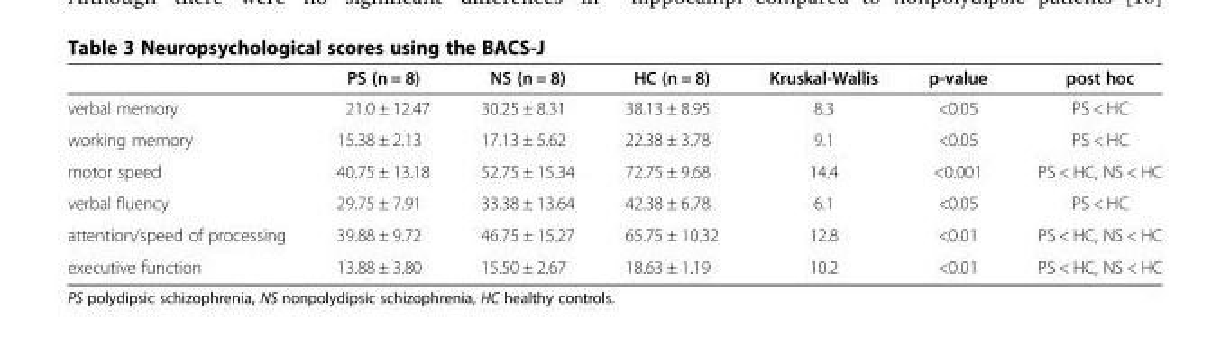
<table><thead><tr><td></td><td>PS (n = 8)</td><td>NS (n = 8)</td><td>HC (n = 8)</td><td>Kruskal-Wallis</td><td>p-value</td><td>post hoc</td></tr></thead><tbody><tr><td>verbal memory</td><td>21.0 ± 12.47</td><td>30.25 ± 8.31</td><td>38.13 ± 8.95</td><td>8.3</td><td>&lt;0.05</td><td>PS &lt; HC</td></tr><tr><td>working memory</td><td>15.38 ± 2.13</td><td>17.13 ± 5.62</td><td>22.38 ± 3.78</td><td>9.1</td><td>&lt;0.05</td><td>PS &lt; HC</td></tr><tr><td>motor speed</td><td>40.75 ± 13.18</td><td>52.75 ± 15.34</td><td>72.75 ± 9.68</td><td>14.4</td><td>&lt;0.001</td><td>PS &lt; HC, NS &lt; HC</td></tr><tr><td>verbal fluency</td><td>29.75 ± 7.91</td><td>33.38 ± 13.64</td><td>42.38 ± 6.78</td><td>6.1</td><td>&lt;0.05</td><td>PS &lt; HC</td></tr><tr><td>attention/speed of processing</td><td>39.88 ± 9.72</td><td>46.75 ± 15.27</td><td>65.75 ± 10.32</td><td>12.8</td><td>&lt;0.01</td><td>PS &lt; HC, NS &lt; HC</td></tr><tr><td>executive function</td><td>13.88 ± 3.80</td><td>15.50 ± 2.67</td><td>18.63 ± 1.19</td><td>10.2</td><td>&lt;0.01</td><td>PS &lt; HC, NS &lt; HC</td></tr></tbody></table>